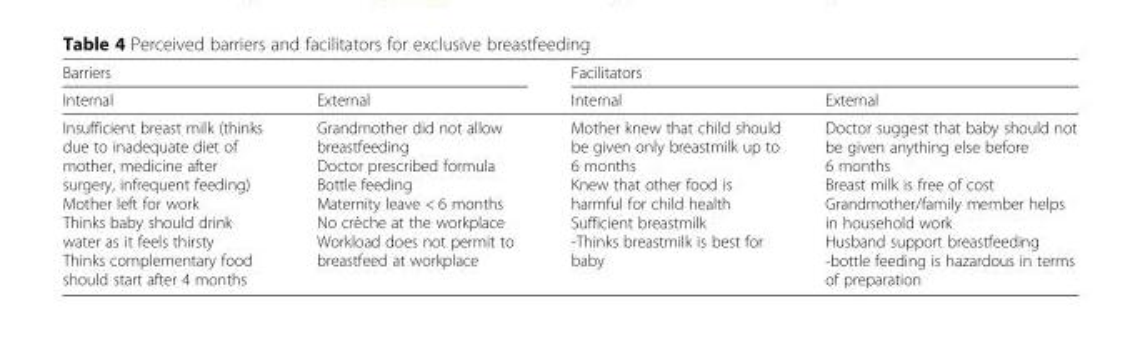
<table><thead><tr><td colspan="2">Barriers</td><td colspan="2">Facilitators</td></tr><tr><td>Internal</td><td>External</td><td>Internal</td><td>External</td></tr></thead><tbody><tr><td>Insufficient breast milk (thinks due to inadequate diet of mother, medicine after surgery, infrequent feeding) Mother left for work Thinks baby should drink water as it feels thirsty Thinks complementary food should start after 4 months</td><td>Grandmother did not allow breastfeeding Doctor prescribed formula Bottle feeding Maternity leave &lt; 6 months No crèche at the workplace Workload does not permit to breastfeed at workplace</td><td>Mother knew that child should be given only breastmilk up to 6 months Knew that other food is harmful for child health Sufficient breastmilk -Thinks breastmilk is best for baby</td><td>Doctor suggest that baby should not be given anything else before 6 months Breast milk is free of cost Grandmother/family member helps in household work Husband support breastfeeding -bottle feeding is hazardous in terms of preparation</td></tr></tbody></table>